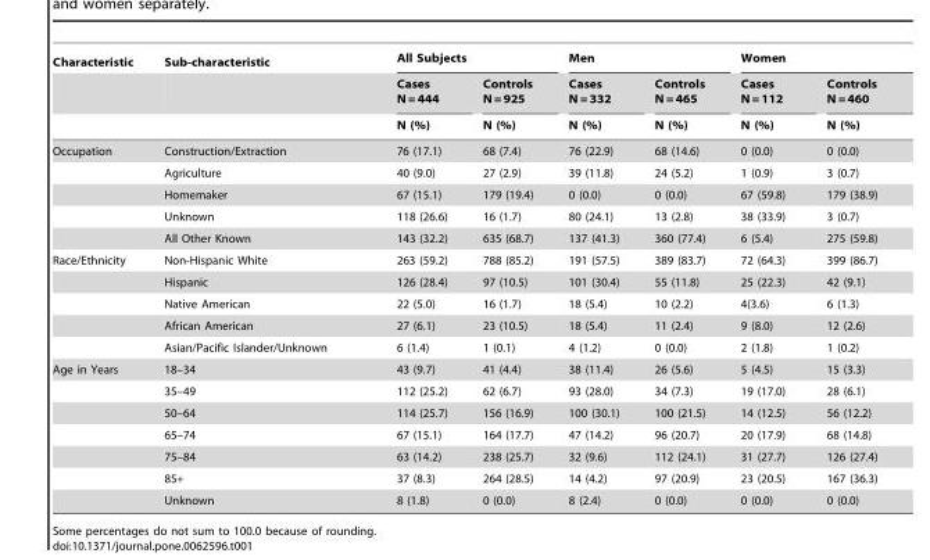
<table><thead><tr><td rowspan="3">Characteristic</td><td rowspan="3">Sub-characteristic</td><td colspan="2">All Subjects</td><td colspan="2">Men</td><td colspan="2">Women</td></tr><tr><td rowspan="2">Cases N = 444 N (%)</td><td rowspan="2">Controls N = 925 N (%)</td><td rowspan="2">Cases N = 332 N (%)</td><td rowspan="2">Controls N = 465 N (%)</td><td rowspan="2">Cases N = 112 N (%)</td><td rowspan="2">Controls N = 460 N (%)</td></tr><tr></tr></thead><tbody><tr><td rowspan="5">Occupation</td><td>Construction/Extraction</td><td>76 (17.1)</td><td>68 (7.4)</td><td>76 (22.9)</td><td>68 (14.6)</td><td>0 (0.0)</td><td>0 (0.0)</td></tr><tr><td>Agriculture</td><td>40 (9.0)</td><td>27 (2.9)</td><td>39 (11.8)</td><td>24 (5.2)</td><td>1 (0.9)</td><td>3 (0.7)</td></tr><tr><td>Homemaker</td><td>67 (15.1)</td><td>179 (19.4)</td><td>0 (0.0)</td><td>0 (0.0)</td><td>67 (59.8)</td><td>179 (38.9)</td></tr><tr><td>Unknown</td><td>118 (26.6)</td><td>16 (1.7)</td><td>80 (24.1)</td><td>13 (2.8)</td><td>38 (33.9)</td><td>3 (0.7)</td></tr><tr><td>All Other Known</td><td>143 (32.2)</td><td>635 (68.7)</td><td>137 (41.3)</td><td>360 (77.4)</td><td>6 (5.4)</td><td>275 (59.8)</td></tr><tr><td rowspan="5">Race/Ethnicity</td><td>Non-Hispanic White</td><td>263 (59.2)</td><td>788 (85.2)</td><td>191 (57.5)</td><td>389 (83.7)</td><td>72 (64.3)</td><td>399 (86.7)</td></tr><tr><td>Hispanic</td><td>126 (28.4)</td><td>97 (10.5)</td><td>101 (30.4)</td><td>55 (11.8)</td><td>25 (22.3)</td><td>42 (9.1)</td></tr><tr><td>Native American</td><td>22 (5.0)</td><td>16 (1.7)</td><td>18 (5.4)</td><td>10 (2.2)</td><td>4(3.6)</td><td>6 (1.3)</td></tr><tr><td>African American</td><td>27 (6.1)</td><td>23 (10.5)</td><td>18 (5.4)</td><td>11 (2.4)</td><td>9 (8.0)</td><td>12 (2.6)</td></tr><tr><td>Asian/Pacific Islander/Unknown</td><td>6 (1.4)</td><td>1 (0.1)</td><td>4 (1.2)</td><td>0 (0.0)</td><td>2 (1.8)</td><td>1 (0.2)</td></tr><tr><td rowspan="7">Age in Years</td><td>18–34</td><td>43 (9.7)</td><td>41 (4.4)</td><td>38 (11.4)</td><td>26 (5.6)</td><td>5 (4.5)</td><td>15 (3.3)</td></tr><tr><td>35–49</td><td>112 (25.2)</td><td>62 (6.7)</td><td>93 (28.0)</td><td>34 (7.3)</td><td>19 (17.0)</td><td>28 (6.1)</td></tr><tr><td>50–64</td><td>114 (25.7)</td><td>156 (16.9)</td><td>100 (30.1)</td><td>100 (21.5)</td><td>14 (12.5)</td><td>56 (12.2)</td></tr><tr><td>65–74</td><td>67 (15.1)</td><td>164 (17.7)</td><td>47 (14.2)</td><td>96 (20.7)</td><td>20 (17.9)</td><td>68 (14.8)</td></tr><tr><td>75–84</td><td>63 (14.2)</td><td>238 (25.7)</td><td>32 (9.6)</td><td>112 (24.1)</td><td>31 (27.7)</td><td>126 (27.4)</td></tr><tr><td>85+</td><td>37 (8.3)</td><td>264 (28.5)</td><td>14 (4.2)</td><td>97 (20.9)</td><td>23 (20.5)</td><td>167 (36.3)</td></tr><tr><td>Unknown</td><td>8 (1.8)</td><td>0 (0.0)</td><td>8 (2.4)</td><td>0 (0.0)</td><td>0 (0.0)</td><td>0 (0.0)</td></tr></tbody></table>